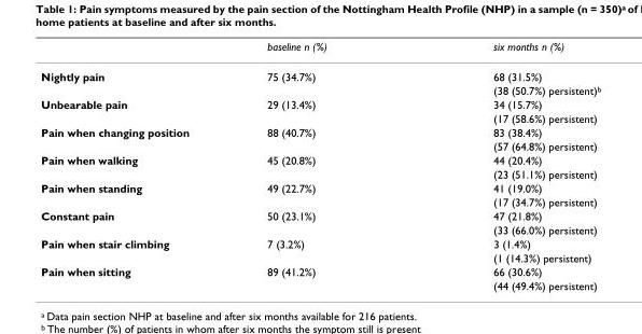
<table><thead><tr><td></td><td>baseline n (%)</td><td>six months n (%)</td></tr></thead><tbody><tr><td rowspan="2">Nightly pain</td><td>75 (34.7%)</td><td>68 (31.5%)</td></tr><tr><td></td><td>(38 (50.7%) persistent)b</td></tr><tr><td rowspan="2">Unbearable pain</td><td>29 (13.4%)</td><td>34 (15.7%)</td></tr><tr><td></td><td>(17 (58.6%) persistent)</td></tr><tr><td rowspan="2">Pain when changing position</td><td>88 (40.7%)</td><td>83 (38.4%)</td></tr><tr><td></td><td>(57 (64.8%) persistent)</td></tr><tr><td rowspan="2">Pain when walking</td><td>45 (20.8%)</td><td>44 (20.4%)</td></tr><tr><td></td><td>(23 (51.1%) persistent)</td></tr><tr><td rowspan="2">Pain when standing</td><td>49 (22.7%)</td><td>41 (19.0%)</td></tr><tr><td></td><td>(17 (34.7%) persistent)</td></tr><tr><td rowspan="2">Constant pain</td><td>50 (23.1%)</td><td>47 (21.8%)</td></tr><tr><td></td><td>(33 (66.0%) persistent)</td></tr><tr><td rowspan="2">Pain when stair climbing</td><td>7 (3.2%)</td><td>3 (1.4%)</td></tr><tr><td></td><td>(1 (14.3%) persistent)</td></tr><tr><td rowspan="2">Pain when sitting</td><td>89 (41.2%)</td><td>66 (30.6%)</td></tr><tr><td></td><td>(44 (49.4%) persistent)</td></tr></tbody></table>